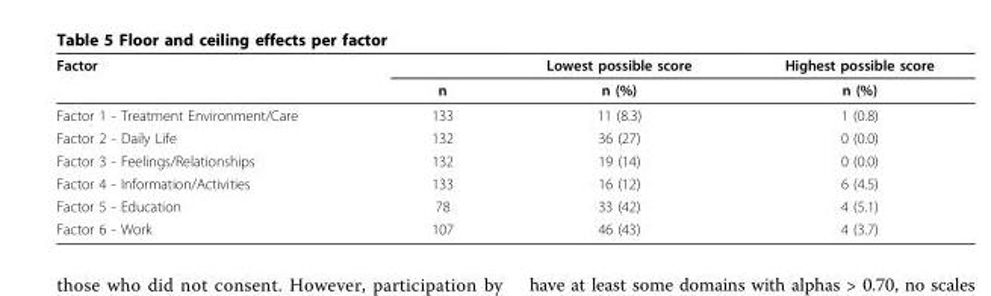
<table><thead><tr><td rowspan="2">Factor</td><td rowspan="2">n</td><td rowspan="2">Lowest possible score n (%)</td><td rowspan="2">Highest possible score n (%)</td></tr><tr></tr></thead><tbody><tr><td>Factor 1 - Treatment Environment/Care</td><td>133</td><td>11 (8.3)</td><td>1 (0.8)</td></tr><tr><td>Factor 2 - Daily Life</td><td>132</td><td>36 (27)</td><td>0 (0.0)</td></tr><tr><td>Factor 3 - Feelings/Relationships</td><td>132</td><td>19 (14)</td><td>0 (0.0)</td></tr><tr><td>Factor 4 - Information/Activities</td><td>133</td><td>16 (12)</td><td>6 (4.5)</td></tr><tr><td>Factor 5 - Education</td><td>78</td><td>33 (42)</td><td>4 (5.1)</td></tr><tr><td>Factor 6 - Work</td><td>107</td><td>46 (43)</td><td>4 (3.7)</td></tr></tbody></table>